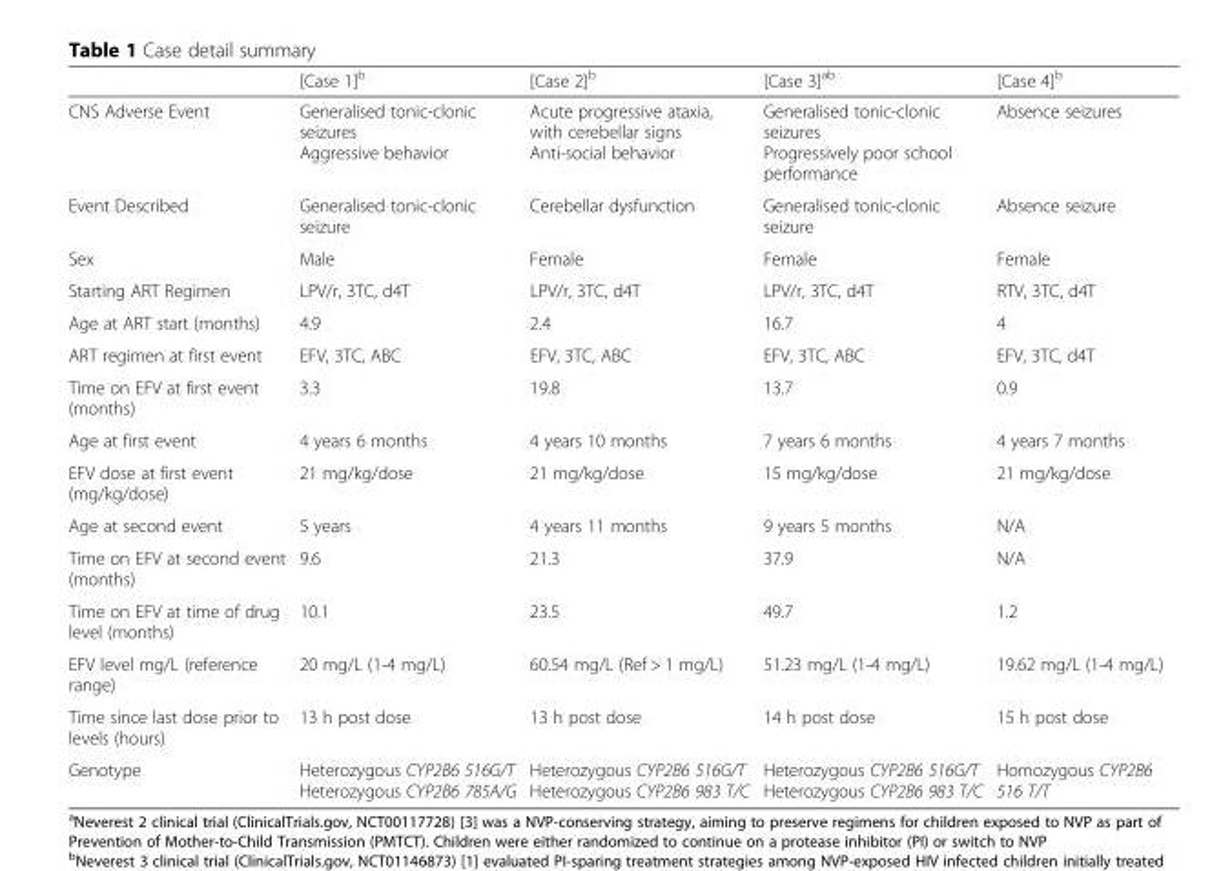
<table><thead><tr><td></td><td>[Case 1]<sup>b</sup></td><td>[Case 2]<sup>b</sup></td><td>[Case 3]<sup>ab</sup></td><td>[Case 4]<sup>b</sup></td></tr></thead><tbody><tr><td>CNS Adverse Event</td><td>Generalised tonic-clonic seizures Aggressive behavior</td><td>Acute progressive ataxia, with cerebellar signs Anti-social behavior</td><td>Generalised tonic-clonic seizures Progressively poor school performance</td><td>Absence seizures</td></tr><tr><td>Event Described</td><td>Generalised tonic-clonic seizure</td><td>Cerebellar dysfunction</td><td>Generalised tonic-clonic seizure</td><td>Absence seizure</td></tr><tr><td>Sex</td><td>Male</td><td>Female</td><td>Female</td><td>Female</td></tr><tr><td>Starting ART Regimen</td><td>LPV/r, 3TC, d4T</td><td>LPV/r, 3TC, d4T</td><td>LPV/r, 3TC, d4T</td><td>RTV, 3TC, d4T</td></tr><tr><td>Age at ART start (months)</td><td>4.9</td><td>2.4</td><td>16.7</td><td>4</td></tr><tr><td>ART regimen at first event</td><td>EFV, 3TC, ABC</td><td>EFV, 3TC, ABC</td><td>EFV, 3TC, ABC</td><td>EFV, 3TC, d4T</td></tr><tr><td>Time on EFV at first event (months)</td><td>3.3</td><td>19.8</td><td>13.7</td><td>0.9</td></tr><tr><td>Age at first event</td><td>4 years 6 months</td><td>4 years 10 months</td><td>7 years 6 months</td><td>4 years 7 months</td></tr><tr><td>EFV dose at first event (mg/kg/dose)</td><td>21 mg/kg/dose</td><td>21 mg/kg/dose</td><td>15 mg/kg/dose</td><td>21 mg/kg/dose</td></tr><tr><td>Age at second event</td><td>5 years</td><td>4 years 11 months</td><td>9 years 5 months</td><td>N/A</td></tr><tr><td>Time on EFV at second event (months)</td><td>9.6</td><td>21.3</td><td>37.9</td><td>N/A</td></tr><tr><td>Time on EFV at time of drug level (months)</td><td>10.1</td><td>23.5</td><td>49.7</td><td>1.2</td></tr><tr><td>EFV level mg/L (reference range)</td><td>20 mg/L (1-4 mg/L)</td><td>60.54 mg/L (Ref &gt; 1 mg/L)</td><td>51.23 mg/L (1-4 mg/L)</td><td>19.62 mg/L (1-4 mg/L)</td></tr><tr><td>Time since last dose prior to levels (hours)</td><td>13 h post dose</td><td>13 h post dose</td><td>14 h post dose</td><td>15 h post dose</td></tr><tr><td>Genotype</td><td>Heterozygous CYP2B6 516G/T Heterozygous CYP2B6 785A/G</td><td>Heterozygous CYP2B6 516G/T Heterozygous CYP2B6 983 T/C</td><td>Heterozygous CYP2B6 516G/T Heterozygous CYP2B6 983 T/C</td><td>Homozygous CYP2B6 516 T/T</td></tr></tbody></table>